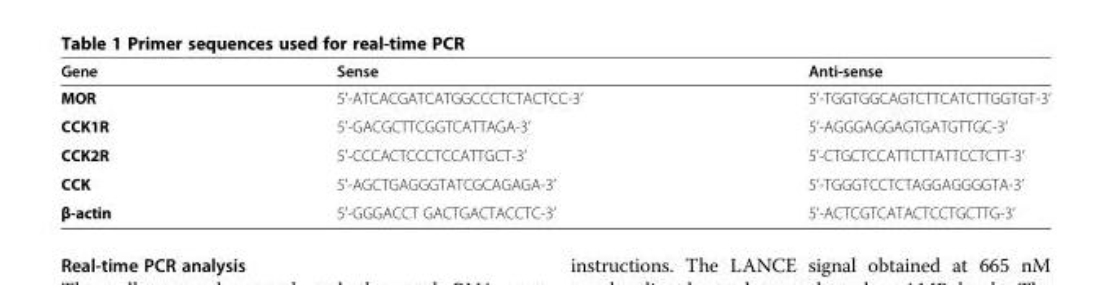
<table><thead><tr><td>Gene</td><td>Sense</td><td>Anti-sense</td></tr></thead><tbody><tr><td>MOR</td><td>5’-ATCACGATCATGGCCCTCTACTCC-3’</td><td>5’-TGGTGGCAGTCTTCATCTTGGTGT-3’</td></tr><tr><td>CCK1R</td><td>5’-GACGCTTCGGTCATTAGA-3’</td><td>5’-AGGGAGGAGTGATGTTGC-3’</td></tr><tr><td>CCK2R</td><td>5’-CCCACTCCCTCCATTGCT-3’</td><td>5’-CTGCTCCATTCTTATTCCTCTT-3’</td></tr><tr><td>CCK</td><td>5’-AGCTGAGGGTATCGCAGAGA-3’</td><td>5’-TGGGTCCTCTAGGAGGGGTA-3’</td></tr><tr><td>β-actin</td><td>5’-GGGACCT GACTGACTACCTC-3’</td><td>5’-ACTCGTCATACTCCTGCTTG-3’</td></tr></tbody></table>